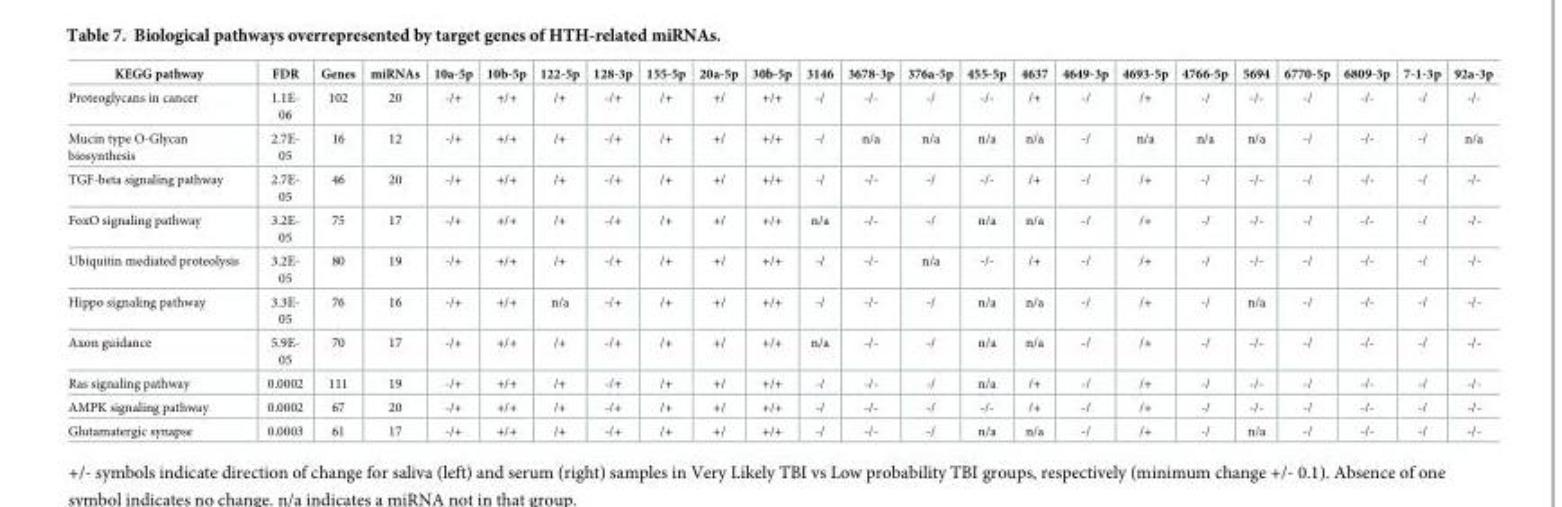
<table><thead><tr><td>KEGG pathway</td><td>FDR</td><td>Genes</td><td>miRNAs</td><td>10a-5p</td><td>10b-5p</td><td>122-5p</td><td>128-3p</td><td>155-5p</td><td>20a-5p</td><td>30b-5p</td><td>3146</td><td>3678-3p</td><td>376a-5p</td><td>455-5p</td><td>4637</td><td>4649-3p</td><td>4693-5p</td><td>4766-5p</td><td>5694</td><td>6770-5p</td><td>6809-3p</td><td>7-1-3p</td><td>92a-3p</td></tr></thead><tbody><tr><td>Proteoglycans in cancer</td><td>1.1E- 06</td><td>102</td><td>20</td><td>-/+</td><td>+/+</td><td>/+</td><td>-/+</td><td>/+</td><td>+/</td><td>+/+</td><td>-/</td><td>-/-</td><td>-/</td><td>-/-</td><td>/+</td><td>-/</td><td>/+</td><td>-/</td><td>-/-</td><td>-/</td><td>-/-</td><td>-/</td><td>-/-</td></tr><tr><td>Mucin type O-Glycan biosynthesis</td><td>2.7E- 05</td><td>16</td><td>12</td><td>-/+</td><td>+/+</td><td>/+</td><td>-/+</td><td>/+</td><td>+/</td><td>+/+</td><td>-/</td><td>n/a</td><td>n/a</td><td>n/a</td><td>n/a</td><td>-/</td><td>n/a</td><td>n/a</td><td>n/a</td><td>-/</td><td>-/-</td><td>-/</td><td>n/a</td></tr><tr><td>TGF-beta signaling pathway</td><td>2.7E- 05</td><td>46</td><td>20</td><td>-/+</td><td>+/+</td><td>/+</td><td>-/+</td><td>/+</td><td>+/</td><td>+/+</td><td>-/</td><td>-/-</td><td>-/</td><td>-/-</td><td>/+</td><td>-/</td><td>/+</td><td>-/</td><td>-/-</td><td>-/</td><td>-/-</td><td>-/</td><td>-/-</td></tr><tr><td>FoxO signaling pathway</td><td>3.2E- 05</td><td>75</td><td>17</td><td>-/+</td><td>+/+</td><td>/+</td><td>-/+</td><td>/+</td><td>+/</td><td>+/+</td><td>n/a</td><td>-/-</td><td>-/</td><td>n/a</td><td>n/a</td><td>-/</td><td>/+</td><td>-/</td><td>-/-</td><td>-/</td><td>-/-</td><td>-/</td><td>-/-</td></tr><tr><td>Ubiquitin mediated proteolysis</td><td>3.2E- 05</td><td>80</td><td>19</td><td>-/+</td><td>+/+</td><td>/+</td><td>-/+</td><td>/+</td><td>+/</td><td>+/+</td><td>-/</td><td>-/-</td><td>n/a</td><td>-/-</td><td>/+</td><td>-/</td><td>/+</td><td>-/</td><td>-/-</td><td>-/</td><td>-/-</td><td>-/</td><td>-/-</td></tr><tr><td>Hippo signaling pathway</td><td>3.3E- 05</td><td>76</td><td>16</td><td>-/+</td><td>+/+</td><td>n/a</td><td>-/+</td><td>/+</td><td>+/</td><td>+/+</td><td>-/</td><td>-/-</td><td>-/</td><td>n/a</td><td>n/a</td><td>-/</td><td>/+</td><td>-/</td><td>n/a</td><td>-/</td><td>-/-</td><td>-/</td><td>-/-</td></tr><tr><td>Axon guidance</td><td>5.9E- 05</td><td>70</td><td>17</td><td>-/+</td><td>+/+</td><td>/+</td><td>-/+</td><td>/+</td><td>+/</td><td>+/+</td><td>n/a</td><td>-/-</td><td>-/</td><td>n/a</td><td>n/a</td><td>-/</td><td>/+</td><td>-/</td><td>-/-</td><td>-/</td><td>-/-</td><td>-/</td><td>-/-</td></tr><tr><td>Ras signaling pathway</td><td>0.0002</td><td>111</td><td>19</td><td>-/+</td><td>+/+</td><td>/+</td><td>-/+</td><td>/+</td><td>+/</td><td>+/+</td><td>-/</td><td>-/-</td><td>-/</td><td>n/a</td><td>/+</td><td>-/</td><td>/+</td><td>-/</td><td>-/-</td><td>-/</td><td>-/-</td><td>-/</td><td>-/-</td></tr><tr><td>AMPK signaling pathway</td><td>0.0002</td><td>67</td><td>20</td><td>-/+</td><td>+/+</td><td>/+</td><td>-/+</td><td>/+</td><td>+/</td><td>+/+</td><td>-/</td><td>-/-</td><td>-/</td><td>-/-</td><td>/+</td><td>-/</td><td>/+</td><td>-/</td><td>-/-</td><td>-/</td><td>-/-</td><td>-/</td><td>-/-</td></tr><tr><td>Glutamatergic synapse</td><td>0.0003</td><td>61</td><td>17</td><td>-/+</td><td>+/+</td><td>/+</td><td>-/+</td><td>/+</td><td>+/</td><td>+/+</td><td>-/</td><td>-/-</td><td>-/</td><td>n/a</td><td>n/a</td><td>-/</td><td>/+</td><td>-/</td><td>n/a</td><td>-/</td><td>-/-</td><td>-/</td><td>-/-</td></tr></tbody></table>